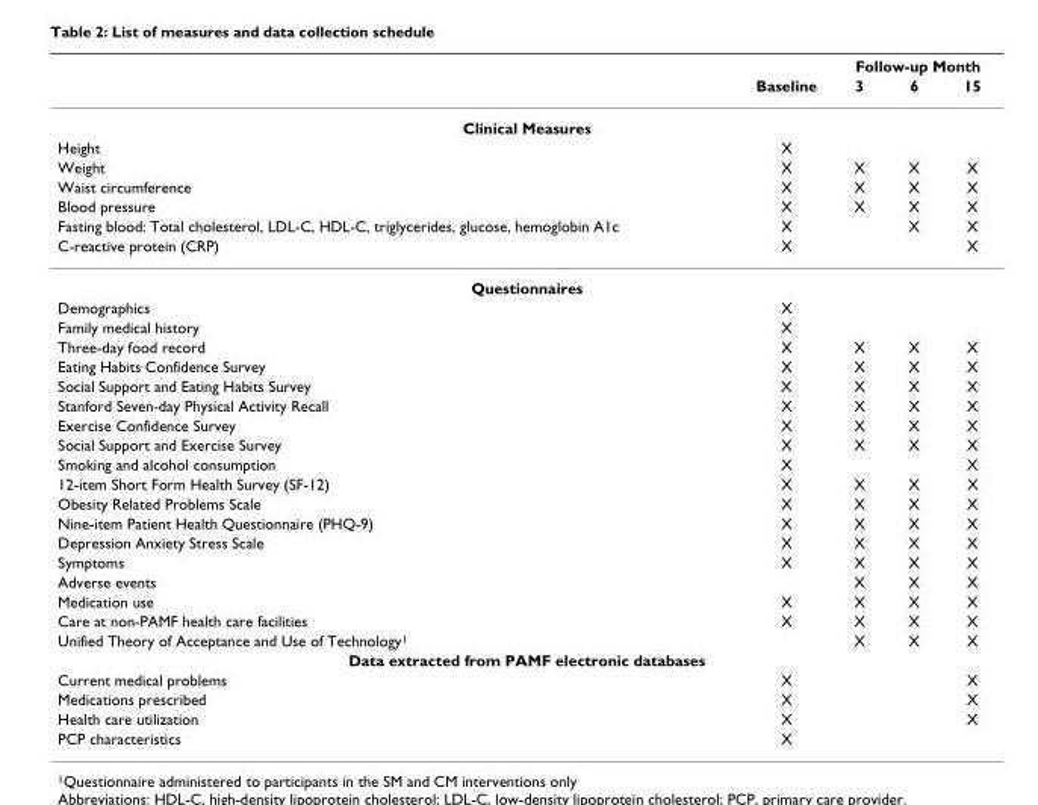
<table><thead><tr><td rowspan="2"></td><td rowspan="2">Baseline</td><td colspan="3">Follow-up Month</td></tr><tr><td>3</td><td>6</td><td>15</td></tr></thead><tbody><tr><td colspan="5">Clinical Measures</td></tr><tr><td>Height</td><td>X</td><td></td><td></td><td></td></tr><tr><td>Weight</td><td>X</td><td>X</td><td>X</td><td>X</td></tr><tr><td>Waist circumference</td><td>X</td><td>X</td><td>X</td><td>X</td></tr><tr><td>Blood pressure</td><td>X</td><td>X</td><td>X</td><td>X</td></tr><tr><td>Fasting blood: Total cholesterol, LDL-C, HDL-C, triglycerides, glucose, hemoglobin A1c</td><td>X</td><td></td><td>X</td><td>X</td></tr><tr><td>C-reactive protein (CRP)</td><td>X</td><td></td><td></td><td>X</td></tr><tr><td colspan="5">Questionnaires</td></tr><tr><td>Demographics</td><td>X</td><td></td><td></td><td></td></tr><tr><td>Family medical history</td><td>X</td><td></td><td></td><td></td></tr><tr><td>Three-day food record</td><td>X</td><td>X</td><td>X</td><td>X</td></tr><tr><td>Eating Habits Confidence Survey</td><td>X</td><td>X</td><td>X</td><td>X</td></tr><tr><td>Social Support and Eating Habits Survey</td><td>X</td><td>X</td><td>X</td><td>X</td></tr><tr><td>Stanford Seven-day Physical Activity Recall</td><td>X</td><td>X</td><td>X</td><td>X</td></tr><tr><td>Exercise Confidence Survey</td><td>X</td><td>X</td><td>X</td><td>X</td></tr><tr><td>Social Support and Exercise Survey</td><td>X</td><td>X</td><td>X</td><td>X</td></tr><tr><td>Smoking and alcohol consumption</td><td>X</td><td></td><td></td><td>X</td></tr><tr><td>12-item Short Form Health Survey (SF-12)</td><td>X</td><td>X</td><td>X</td><td>X</td></tr><tr><td>Obesity Related Problems Scale</td><td>X</td><td>X</td><td>X</td><td>X</td></tr><tr><td>Nine-item Patient Health Questionnaire (PHQ-9)</td><td>X</td><td>X</td><td>X</td><td>X</td></tr><tr><td>Depression Anxiety Stress Scale</td><td>X</td><td>X</td><td>X</td><td>X</td></tr><tr><td>Symptoms</td><td>X</td><td>X</td><td>X</td><td>X</td></tr><tr><td>Adverse events</td><td></td><td>X</td><td>X</td><td>X</td></tr><tr><td>Medication use</td><td>X</td><td>X</td><td>X</td><td>X</td></tr><tr><td>Care at non-PAMF health care facilities</td><td>X</td><td>X</td><td>X</td><td>X</td></tr><tr><td>Unified Theory of Acceptance and Use of Technology<sup>1</sup></td><td></td><td>X</td><td>X</td><td>X</td></tr><tr><td colspan="5">Data extracted from PAMF electronic databases</td></tr><tr><td>Current medical problems</td><td>X</td><td></td><td></td><td>X</td></tr><tr><td>Medications prescribed</td><td>X</td><td></td><td></td><td>X</td></tr><tr><td>Health care utilization</td><td>X</td><td></td><td></td><td>X</td></tr><tr><td>PCP characteristics</td><td>X</td><td></td><td></td><td></td></tr></tbody></table>